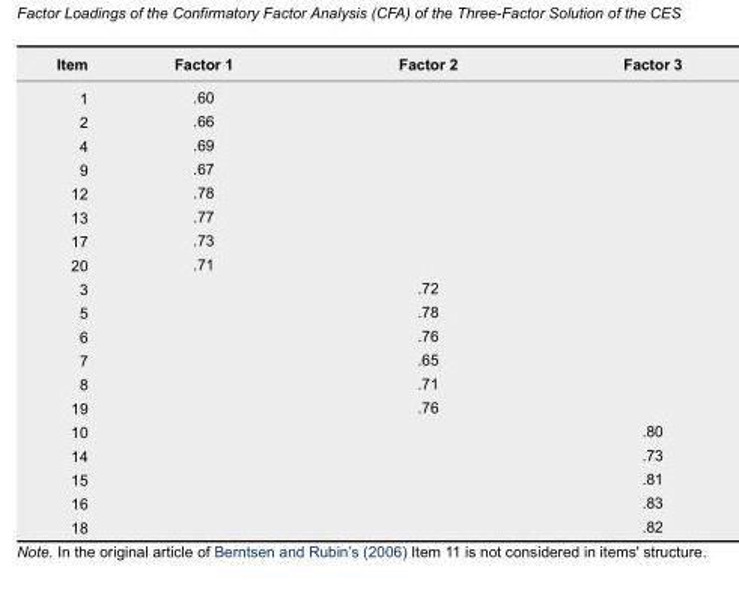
<table><thead><tr><td>Item</td><td>Factor 1</td><td>Factor 2</td><td>Factor 3</td></tr></thead><tbody><tr><td>1</td><td>.60</td><td></td><td></td></tr><tr><td>2</td><td>.66</td><td></td><td></td></tr><tr><td>4</td><td>.69</td><td></td><td></td></tr><tr><td>9</td><td>.67</td><td></td><td></td></tr><tr><td>12</td><td>.78</td><td></td><td></td></tr><tr><td>13</td><td>.77</td><td></td><td></td></tr><tr><td>17</td><td>.73</td><td></td><td></td></tr><tr><td>20</td><td>.71</td><td></td><td></td></tr><tr><td>3</td><td></td><td>.72</td><td></td></tr><tr><td>5</td><td></td><td>.78</td><td></td></tr><tr><td>6</td><td></td><td>.76</td><td></td></tr><tr><td>7</td><td></td><td>.65</td><td></td></tr><tr><td>8</td><td></td><td>.71</td><td></td></tr><tr><td>19</td><td></td><td>.76</td><td></td></tr><tr><td>10</td><td></td><td></td><td>.80</td></tr><tr><td>14</td><td></td><td></td><td>.73</td></tr><tr><td>15</td><td></td><td></td><td>.81</td></tr><tr><td>16</td><td></td><td></td><td>.83</td></tr><tr><td>18</td><td></td><td></td><td>.82</td></tr></tbody></table>